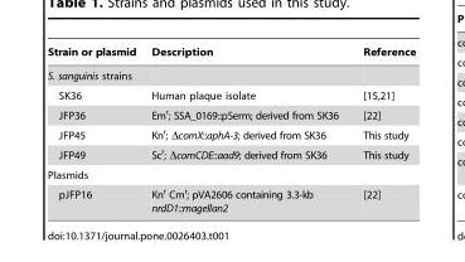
<table><thead><tr><td>Strain or plasmid</td><td>Description</td><td>Reference</td></tr></thead><tbody><tr><td colspan="3">S. sanguinis strains</td></tr><tr><td>SK36</td><td>Human plaque isolate</td><td>[15,21]</td></tr><tr><td>JFP36</td><td>Em<sup>r</sup>; SSA_0169::pSerm; derived from SK36</td><td>[22]</td></tr><tr><td>JFP45</td><td>Kn<sup>r</sup>; ΔcomX::aphA-3; derived from SK36</td><td>This study</td></tr><tr><td>JFP49</td><td>Sc<sup>r</sup>; ΔcomCDE::aad9; derived from SK36</td><td>This study</td></tr><tr><td colspan="3">Plasmids</td></tr><tr><td>pJFP16</td><td>Kn<sup>r</sup> Cm<sup>r</sup>; pVA2606 containing 3.3-kb nrdD1::magellan2</td><td>[22]</td></tr></tbody></table>